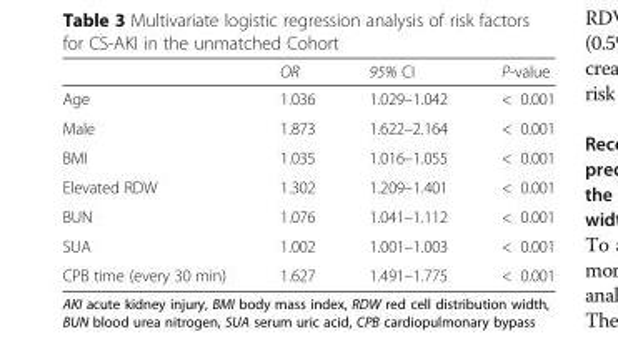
<table><thead><tr><td></td><td>OR</td><td>95% CI</td><td>P-value</td></tr></thead><tbody><tr><td>Age</td><td>1.036</td><td>1.029–1.042</td><td>&lt; 0.001</td></tr><tr><td>Male</td><td>1.873</td><td>1.622–2.164</td><td>&lt; 0.001</td></tr><tr><td>BMI</td><td>1.035</td><td>1.016–1.055</td><td>&lt; 0.001</td></tr><tr><td>Elevated RDW</td><td>1.302</td><td>1.209–1.401</td><td>&lt; 0.001</td></tr><tr><td>BUN</td><td>1.076</td><td>1.041–1.112</td><td>&lt; 0.001</td></tr><tr><td>SUA</td><td>1.002</td><td>1.001–1.003</td><td>&lt; 0.001</td></tr><tr><td>CPB time (every 30 min)</td><td>1.627</td><td>1.491–1.775</td><td>&lt; 0.001</td></tr></tbody></table>